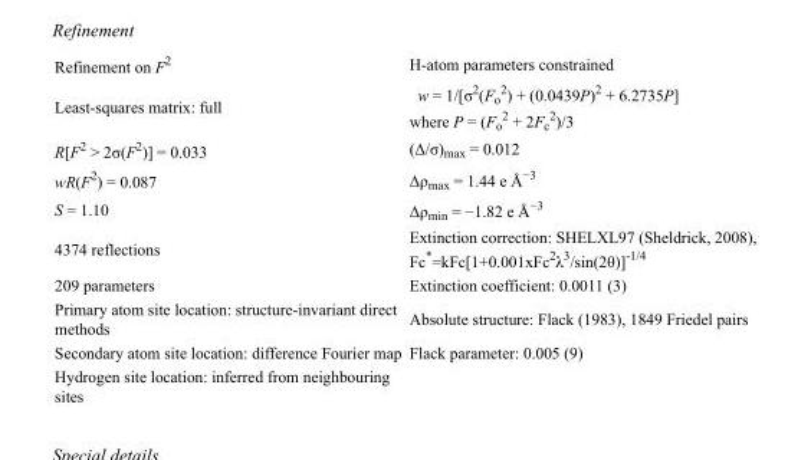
<table><tbody><tr><td>Refinement on F<sup>2</sup></td><td>H-atom parameters constrained</td></tr><tr><td>Least-squares matrix: full</td><td>w = 1/[σ<sup>2</sup>(F<sub>o</sub> <sup>2</sup>) + (0.0439P)<sup>2</sup> + 6.2735P] where P = (F<sub>o</sub> <sup>2</sup> + 2F<sub>c</sub> <sup>2</sup>)/3</td></tr><tr><td>R[F<sup>2</sup> &gt; 2σ(F<sup>2</sup>)] = 0.033</td><td>(Δ/σ)<sub>max</sub> = 0.012</td></tr><tr><td>wR(F<sup>2</sup>) = 0.087</td><td>Δρ<sub>max</sub> = 1.44 e Å<sup>−3</sup></td></tr><tr><td>S = 1.10</td><td>Δρ<sub>min</sub> = −1.82 e Å<sup>−3</sup></td></tr><tr><td>4374 reflections</td><td>Extinction correction: SHELXL97 (Sheldrick, 2008), Fc*=kFc[1+0.001xFc<sup>2</sup>λ<sup>3</sup>/sin(2θ)]<sup>-1/4</sup></td></tr><tr><td>209 parameters</td><td>Extinction coefficient: 0.0011 (3)</td></tr><tr><td>Primary atom site location: structure-invariant direct methods</td><td>Absolute structure: Flack (1983), 1849 Friedel pairs</td></tr><tr><td>Secondary atom site location: difference Fourier map</td><td>Flack parameter: 0.005 (9)</td></tr><tr><td>Hydrogen site location: inferred from neighbouring sites</td><td></td></tr></tbody></table>